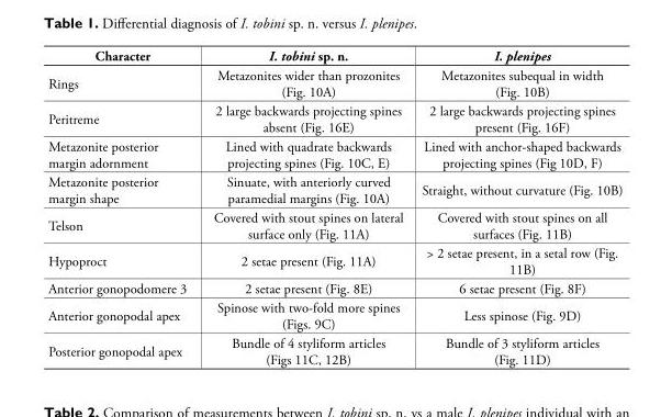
<table><thead><tr><td>Character</td><td>I. tobini sp. n.</td><td>I. plenipes</td></tr></thead><tbody><tr><td>Rings</td><td>Metazonites wider than prozonites (Fig. 10A)</td><td>Metazonites subequal in width (Fig. 10B)</td></tr><tr><td>Peritreme</td><td>2 large backwards projecting spines absent (Fig. 16E)</td><td>2 large backwards projecting spines present (Fig. 16F)</td></tr><tr><td>Metazonite posterior margin adornment</td><td>Lined with quadrate backwards projecting spines (Fig. 10C, E)</td><td>Lined with anchor-shaped backwards projecting spines (Fig 10D, F)</td></tr><tr><td>Metazonite posterior margin shape</td><td>Sinuate, with anteriorly curved paramedial margins (Fig. 10A)</td><td>Straight, without curvature (Fig. 10B)</td></tr><tr><td>Telson</td><td>Covered with stout spines on lateral surface only (Fig. 11A)</td><td>Covered with stout spines on all surfaces (Fig. 11B)</td></tr><tr><td>Hypoproct</td><td>2 setae present (Fig. 11A)</td><td>&gt; 2 setae present, in a setal row (Fig. 11B)</td></tr><tr><td>Anterior gonopodomere 3</td><td>2 setae present (Fig. 8E)</td><td>6 setae present (Fig. 8F)</td></tr><tr><td>Anterior gonopodal apex</td><td>Spinose with two-fold more spines (Figs. 9C)</td><td>Less spinose (Fig. 9D)</td></tr><tr><td>Posterior gonopodal apex</td><td>Bundle of 4 styliform articles (Figs 11C, 12B)</td><td>Bundle of 3 styliform articles (Fig. 11D)</td></tr></tbody></table>